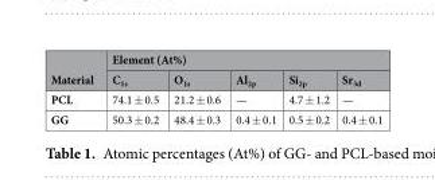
<table><thead><tr><td rowspan="2">Material</td><td colspan="5">Element (At%)</td></tr><tr><td>C<sub>1s</sub></td><td>O<sub>1s</sub></td><td>Al<sub>2p</sub></td><td>Si<sub>2p</sub></td><td>Sr<sub>3d</sub></td></tr></thead><tbody><tr><td>PCL</td><td>74.1 ± 0.5</td><td>21.2 ± 0.6</td><td>—</td><td>4.7 ± 1.2</td><td>—</td></tr><tr><td>GG</td><td>50.3 ± 0.2</td><td>48.4 ± 0.3</td><td>0.4 ± 0.1</td><td>0.5 ± 0.2</td><td>0.4 ± 0.1</td></tr></tbody></table>